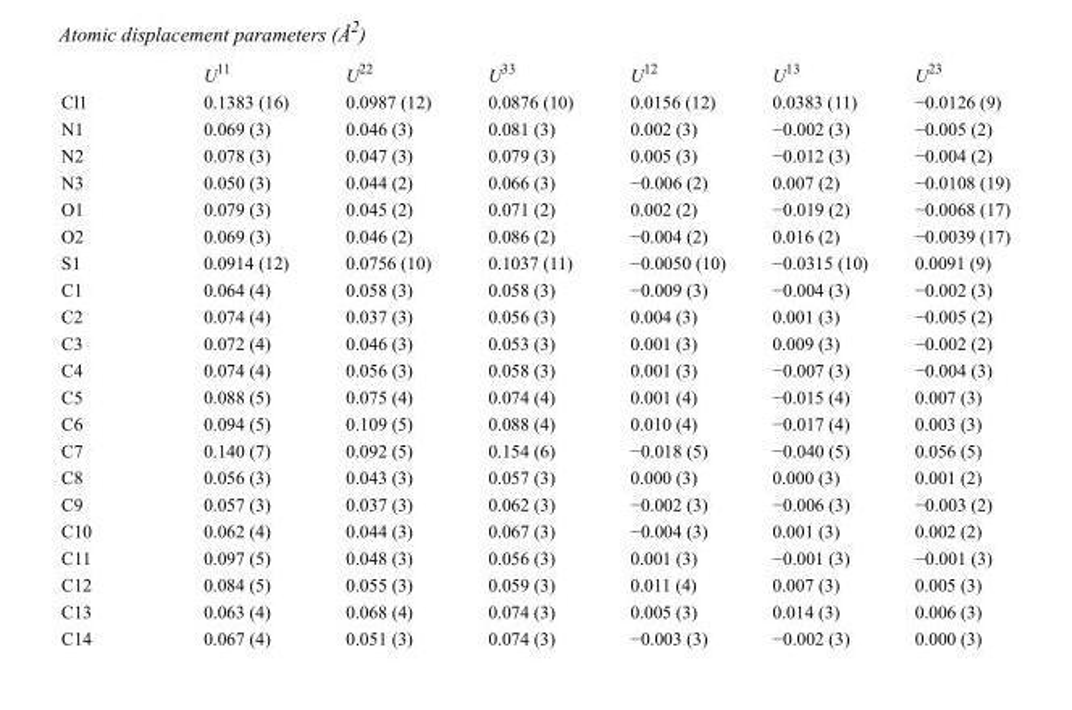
<table><thead><tr><td></td><td>U<sup>11</sup></td><td>U<sup>22</sup></td><td>U<sup>33</sup></td><td>U<sup>12</sup></td><td>U<sup>13</sup></td><td>U<sup>23</sup></td></tr></thead><tbody><tr><td>Cl1</td><td>0.1383 (16)</td><td>0.0987 (12)</td><td>0.0876 (10)</td><td>0.0156 (12)</td><td>0.0383 (11)</td><td>−0.0126 (9)</td></tr><tr><td>N1</td><td>0.069 (3)</td><td>0.046 (3)</td><td>0.081 (3)</td><td>0.002 (3)</td><td>−0.002 (3)</td><td>−0.005 (2)</td></tr><tr><td>N2</td><td>0.078 (3)</td><td>0.047 (3)</td><td>0.079 (3)</td><td>0.005 (3)</td><td>−0.012 (3)</td><td>−0.004 (2)</td></tr><tr><td>N3</td><td>0.050 (3)</td><td>0.044 (2)</td><td>0.066 (3)</td><td>−0.006 (2)</td><td>0.007 (2)</td><td>−0.0108 (19)</td></tr><tr><td>O1</td><td>0.079 (3)</td><td>0.045 (2)</td><td>0.071 (2)</td><td>0.002 (2)</td><td>−0.019 (2)</td><td>−0.0068 (17)</td></tr><tr><td>O2</td><td>0.069 (3)</td><td>0.046 (2)</td><td>0.086 (2)</td><td>−0.004 (2)</td><td>0.016 (2)</td><td>−0.0039 (17)</td></tr><tr><td>S1</td><td>0.0914 (12)</td><td>0.0756 (10)</td><td>0.1037 (11)</td><td>−0.0050 (10)</td><td>−0.0315 (10)</td><td>0.0091 (9)</td></tr><tr><td>C1</td><td>0.064 (4)</td><td>0.058 (3)</td><td>0.058 (3)</td><td>−0.009 (3)</td><td>−0.004 (3)</td><td>−0.002 (3)</td></tr><tr><td>C2</td><td>0.074 (4)</td><td>0.037 (3)</td><td>0.056 (3)</td><td>0.004 (3)</td><td>0.001 (3)</td><td>−0.005 (2)</td></tr><tr><td>C3</td><td>0.072 (4)</td><td>0.046 (3)</td><td>0.053 (3)</td><td>0.001 (3)</td><td>0.009 (3)</td><td>−0.002 (2)</td></tr><tr><td>C4</td><td>0.074 (4)</td><td>0.056 (3)</td><td>0.058 (3)</td><td>0.001 (3)</td><td>−0.007 (3)</td><td>−0.004 (3)</td></tr><tr><td>C5</td><td>0.088 (5)</td><td>0.075 (4)</td><td>0.074 (4)</td><td>0.001 (4)</td><td>−0.015 (4)</td><td>0.007 (3)</td></tr><tr><td>C6</td><td>0.094 (5)</td><td>0.109 (5)</td><td>0.088 (4)</td><td>0.010 (4)</td><td>−0.017 (4)</td><td>0.003 (3)</td></tr><tr><td>C7</td><td>0.140 (7)</td><td>0.092 (5)</td><td>0.154 (6)</td><td>−0.018 (5)</td><td>−0.040 (5)</td><td>0.056 (5)</td></tr><tr><td>C8</td><td>0.056 (3)</td><td>0.043 (3)</td><td>0.057 (3)</td><td>0.000 (3)</td><td>0.000 (3)</td><td>0.001 (2)</td></tr><tr><td>C9</td><td>0.057 (3)</td><td>0.037 (3)</td><td>0.062 (3)</td><td>−0.002 (3)</td><td>−0.006 (3)</td><td>−0.003 (2)</td></tr><tr><td>C10</td><td>0.062 (4)</td><td>0.044 (3)</td><td>0.067 (3)</td><td>−0.004 (3)</td><td>0.001 (3)</td><td>0.002 (2)</td></tr><tr><td>C11</td><td>0.097 (5)</td><td>0.048 (3)</td><td>0.056 (3)</td><td>0.001 (3)</td><td>−0.001 (3)</td><td>−0.001 (3)</td></tr><tr><td>C12</td><td>0.084 (5)</td><td>0.055 (3)</td><td>0.059 (3)</td><td>0.011 (4)</td><td>0.007 (3)</td><td>0.005 (3)</td></tr><tr><td>C13</td><td>0.063 (4)</td><td>0.068 (4)</td><td>0.074 (3)</td><td>0.005 (3)</td><td>0.014 (3)</td><td>0.006 (3)</td></tr><tr><td>C14</td><td>0.067 (4)</td><td>0.051 (3)</td><td>0.074 (3)</td><td>−0.003 (3)</td><td>−0.002 (3)</td><td>0.000 (3)</td></tr></tbody></table>